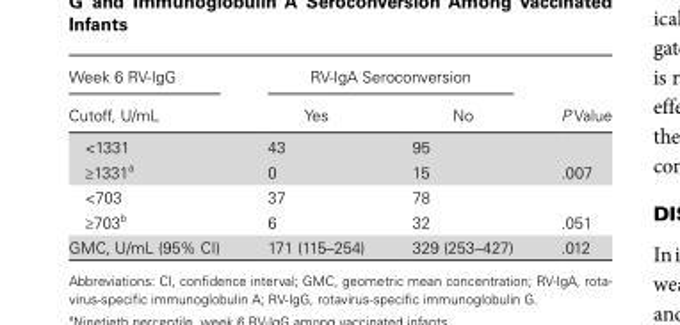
<table><thead><tr><td rowspan="2">Week 6 RV-IgG Cutoff, U/mL</td><td colspan="2">RV-IgA Seroconversion</td><td rowspan="2">P Value</td></tr><tr><td>Yes</td><td>No</td></tr></thead><tbody><tr><td>&lt;1331</td><td>43</td><td>95</td><td></td></tr><tr><td>≥1331<sup>a</sup></td><td>0</td><td>15</td><td>.007</td></tr><tr><td>&lt;703</td><td>37</td><td>78</td><td></td></tr><tr><td>≥703<sup>b</sup></td><td>6</td><td>32</td><td>.051</td></tr><tr><td>GMC, U/mL (95% CI)</td><td>171 (115–254)</td><td>329 (253–427)</td><td>.012</td></tr></tbody></table>